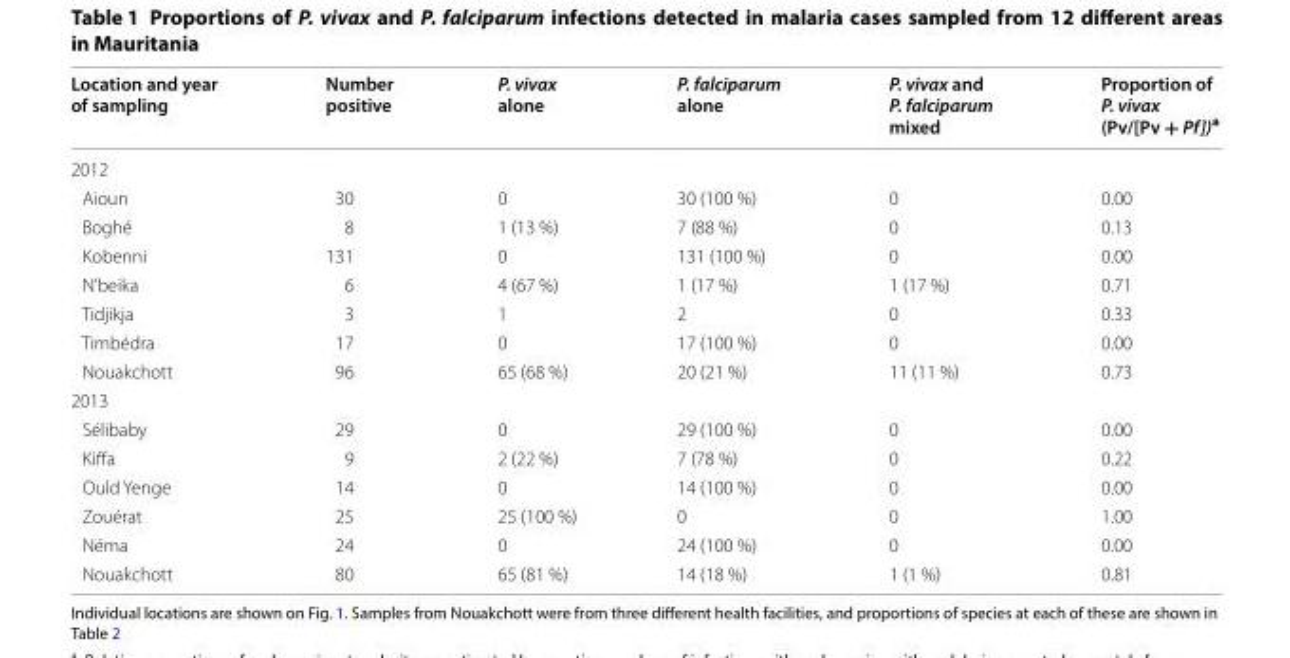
<table><thead><tr><td>Location and year of sampling</td><td>Number positive</td><td>P. vivax alone</td><td>P. falciparum alone</td><td>P. vivax and P. falciparum mixed</td><td>Proportion of P. vivax (Pv/[Pv + Pf])<sup>a</sup></td></tr></thead><tbody><tr><td colspan="6">2012</td></tr><tr><td>Aioun</td><td>30</td><td>0</td><td>30 (100 %)</td><td>0</td><td>0.00</td></tr><tr><td>Boghé</td><td>8</td><td>1 (13 %)</td><td>7 (88 %)</td><td>0</td><td>0.13</td></tr><tr><td>Kobenni</td><td>131</td><td>0</td><td>131 (100 %)</td><td>0</td><td>0.00</td></tr><tr><td>N’beika</td><td>6</td><td>4 (67 %)</td><td>1 (17 %)</td><td>1 (17 %)</td><td>0.71</td></tr><tr><td>Tidjikja</td><td>3</td><td>1</td><td>2</td><td>0</td><td>0.33</td></tr><tr><td>Timbédra</td><td>17</td><td>0</td><td>17 (100 %)</td><td>0</td><td>0.00</td></tr><tr><td>Nouakchott</td><td>96</td><td>65 (68 %)</td><td>20 (21 %)</td><td>11 (11 %)</td><td>0.73</td></tr><tr><td colspan="6">2013</td></tr><tr><td>Sélibaby</td><td>29</td><td>0</td><td>29 (100 %)</td><td>0</td><td>0.00</td></tr><tr><td>Kiffa</td><td>9</td><td>2 (22 %)</td><td>7 (78 %)</td><td>0</td><td>0.22</td></tr><tr><td>Ould Yenge</td><td>14</td><td>0</td><td>14 (100 %)</td><td>0</td><td>0.00</td></tr><tr><td>Zouérat</td><td>25</td><td>25 (100 %)</td><td>0</td><td>0</td><td>1.00</td></tr><tr><td>Néma</td><td>24</td><td>0</td><td>24 (100 %)</td><td>0</td><td>0.00</td></tr><tr><td>Nouakchott</td><td>80</td><td>65 (81 %)</td><td>14 (18 %)</td><td>1 (1 %)</td><td>0.81</td></tr></tbody></table>